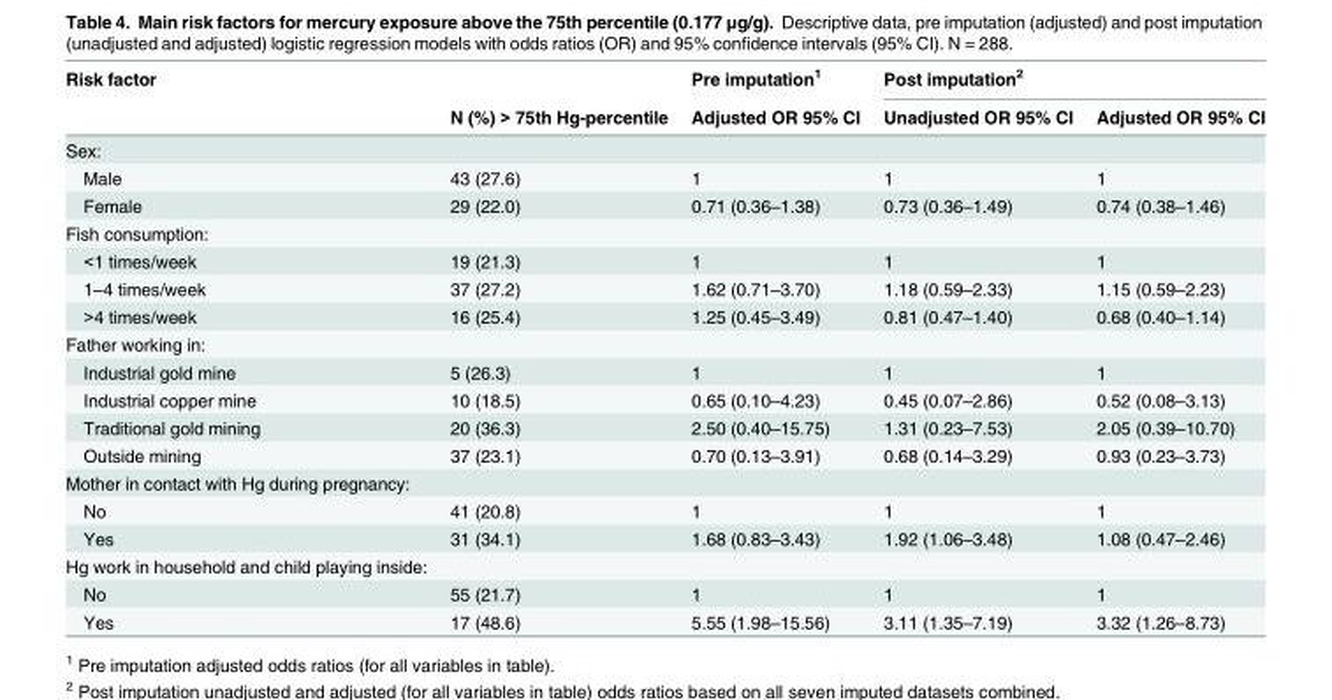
<table><thead><tr><td rowspan="2">Risk factor</td><td rowspan="2">N (%) &gt; 75th Hg-percentile</td><td rowspan="2">Pre imputation<sup>1</sup> Adjusted OR 95% CI</td><td colspan="2">Post imputation<sup>2</sup></td></tr><tr><td>Unadjusted OR 95% CI</td><td>Adjusted OR 95% CI</td></tr></thead><tbody><tr><td colspan="5">Sex:</td></tr><tr><td>Male</td><td>43 (27.6)</td><td>1</td><td>1</td><td>1</td></tr><tr><td>Female</td><td>29 (22.0)</td><td>0.71 (0.36–1.38)</td><td>0.73 (0.36–1.49)</td><td>0.74 (0.38–1.46)</td></tr><tr><td colspan="5">Fish consumption:</td></tr><tr><td>&lt;1 times/week</td><td>19 (21.3)</td><td>1</td><td>1</td><td>1</td></tr><tr><td>1–4 times/week</td><td>37 (27.2)</td><td>1.62 (0.71–3.70)</td><td>1.18 (0.59–2.33)</td><td>1.15 (0.59–2.23)</td></tr><tr><td>&gt;4 times/week</td><td>16 (25.4)</td><td>1.25 (0.45–3.49)</td><td>0.81 (0.47–1.40)</td><td>0.68 (0.40–1.14)</td></tr><tr><td colspan="5">Father working in:</td></tr><tr><td>Industrial gold mine</td><td>5 (26.3)</td><td>1</td><td>1</td><td>1</td></tr><tr><td>Industrial copper mine</td><td>10 (18.5)</td><td>0.65 (0.10–4.23)</td><td>0.45 (0.07–2.86)</td><td>0.52 (0.08–3.13)</td></tr><tr><td>Traditional gold mining</td><td>20 (36.3)</td><td>2.50 (0.40–15.75)</td><td>1.31 (0.23–7.53)</td><td>2.05 (0.39–10.70)</td></tr><tr><td>Outside mining</td><td>37 (23.1)</td><td>0.70 (0.13–3.91)</td><td>0.68 (0.14–3.29)</td><td>0.93 (0.23–3.73)</td></tr><tr><td colspan="5">Mother in contact with Hg during pregnancy:</td></tr><tr><td>No</td><td>41 (20.8)</td><td>1</td><td>1</td><td>1</td></tr><tr><td>Yes</td><td>31 (34.1)</td><td>1.68 (0.83–3.43)</td><td>1.92 (1.06–3.48)</td><td>1.08 (0.47–2.46)</td></tr><tr><td colspan="5">Hg work in household and child playing inside:</td></tr><tr><td>No</td><td>55 (21.7)</td><td>1</td><td>1</td><td>1</td></tr><tr><td>Yes</td><td>17 (48.6)</td><td>5.55 (1.98–15.56)</td><td>3.11 (1.35–7.19)</td><td>3.32 (1.26–8.73)</td></tr></tbody></table>